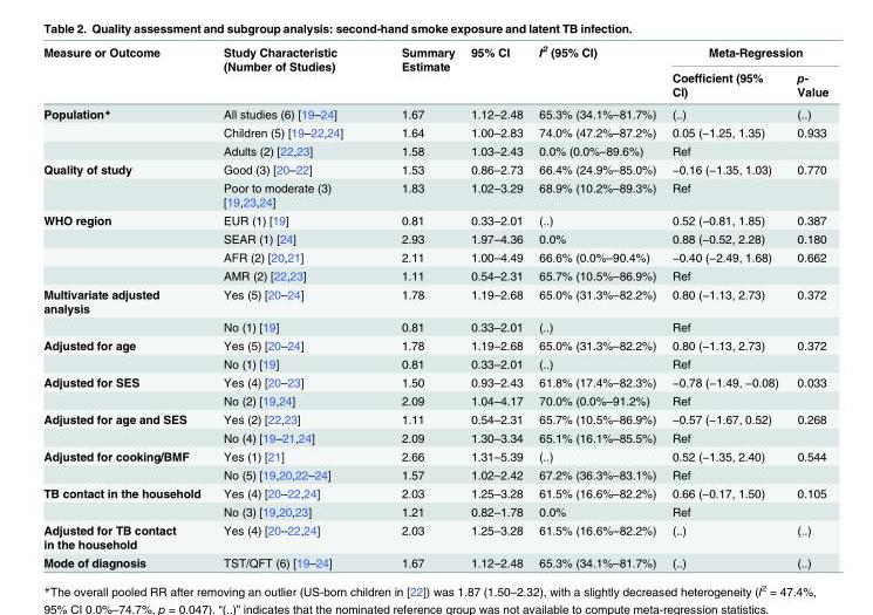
<table><thead><tr><td rowspan="2">Measure or Outcome</td><td rowspan="2">Study Characteristic (Number of Studies)</td><td rowspan="2">Summary Estimate</td><td rowspan="2">95% CI</td><td rowspan="2">I<sup>2</sup> (95% CI)</td><td colspan="2">Meta-Regression</td></tr><tr><td>Coefficient (95% CI)</td><td>p- Value</td></tr></thead><tbody><tr><td rowspan="3">Population*</td><td>All studies (6) [19–24]</td><td>1.67</td><td>1.12–2.48</td><td>65.3% (34.1%–81.7%)</td><td>(..)</td><td>(..)</td></tr><tr><td>Children (5) [19–22,24]</td><td>1.64</td><td>1.00–2.83</td><td>74.0% (47.2%–87.2%)</td><td>0.05 (−1.25, 1.35)</td><td>0.933</td></tr><tr><td>Adults (2) [22,23]</td><td>1.58</td><td>1.03–2.43</td><td>0.0% (0.0%–89.6%)</td><td>Ref</td><td></td></tr><tr><td rowspan="2">Quality of study</td><td>Good (3) [20–22]</td><td>1.53</td><td>0.86–2.73</td><td>66.4% (24.9%–85.0%)</td><td>−0.16 (−1.35, 1.03)</td><td>0.770</td></tr><tr><td>Poor to moderate (3) [19,23,24]</td><td>1.83</td><td>1.02–3.29</td><td>68.9% (10.2%–89.3%)</td><td>Ref</td><td></td></tr><tr><td rowspan="4">WHO region</td><td>EUR (1) [19]</td><td>0.81</td><td>0.33–2.01</td><td>(..)</td><td>0.52 (−0.81, 1.85)</td><td>0.387</td></tr><tr><td>SEAR (1) [24]</td><td>2.93</td><td>1.97–4.36</td><td>0.0%</td><td>0.88 (−0.52, 2.28)</td><td>0.180</td></tr><tr><td>AFR (2) [20,21]</td><td>2.11</td><td>1.00–4.49</td><td>66.6% (0.0%–90.4%)</td><td>−0.40 (−2.49, 1.68)</td><td>0.662</td></tr><tr><td>AMR (2) [22,23]</td><td>1.11</td><td>0.54–2.31</td><td>65.7% (10.5%–86.9%)</td><td>Ref</td><td></td></tr><tr><td rowspan="2">Multivariate adjusted analysis</td><td>Yes (5) [20–24]</td><td>1.78</td><td>1.19–2.68</td><td>65.0% (31.3%–82.2%)</td><td>0.80 (−1.13, 2.73)</td><td>0.372</td></tr><tr><td>No (1) [19]</td><td>0.81</td><td>0.33–2.01</td><td>(..)</td><td>Ref</td><td></td></tr><tr><td rowspan="2">Adjusted for age</td><td>Yes (5) [20–24]</td><td>1.78</td><td>1.19–2.68</td><td>65.0% (31.3%–82.2%)</td><td>0.80 (−1.13, 2.73)</td><td>0.372</td></tr><tr><td>No (1) [19]</td><td>0.81</td><td>0.33–2.01</td><td>(..)</td><td>Ref</td><td></td></tr><tr><td rowspan="2">Adjusted for SES</td><td>Yes (4) [20–23]</td><td>1.50</td><td>0.93–2.43</td><td>61.8% (17.4%–82.3%)</td><td>−0.78 (−1.49, −0.08)</td><td>0.033</td></tr><tr><td>No (2) [19,24]</td><td>2.09</td><td>1.04–4.17</td><td>70.0% (0.0%–91.2%)</td><td>Ref</td><td></td></tr><tr><td rowspan="2">Adjusted for age and SES</td><td>Yes (2) [22,23]</td><td>1.11</td><td>0.54–2.31</td><td>65.7% (10.5%–86.9%)</td><td>−0.57 (−1.67, 0.52)</td><td>0.268</td></tr><tr><td>No (4) [19–21,24]</td><td>2.09</td><td>1.30–3.34</td><td>65.1% (16.1%–85.5%)</td><td>Ref</td><td></td></tr><tr><td rowspan="2">Adjusted for cooking/BMF</td><td>Yes (1) [21]</td><td>2.66</td><td>1.31–5.39</td><td>(..)</td><td>0.52 (−1.35, 2.40)</td><td>0.544</td></tr><tr><td>No (5) [19,20,22–24]</td><td>1.57</td><td>1.02–2.42</td><td>67.2% (36.3%–83.1%)</td><td>Ref</td><td></td></tr><tr><td rowspan="2">TB contact in the household</td><td>Yes (4) [20–22,24]</td><td>2.03</td><td>1.25–3.28</td><td>61.5% (16.6%–82.2%)</td><td>0.66 (−0.17, 1.50)</td><td>0.105</td></tr><tr><td>No (3) [19,20,23]</td><td>1.21</td><td>0.82–1.78</td><td>0.0%</td><td>Ref</td><td></td></tr><tr><td>Adjusted for TB contact in the household</td><td>Yes (4) [20–22,24]</td><td>2.03</td><td>1.25–3.28</td><td>61.5% (16.6%–82.2%)</td><td>(..)</td><td>(..)</td></tr><tr><td>Mode of diagnosis</td><td>TST/QFT (6) [19–24]</td><td>1.67</td><td>1.12–2.48</td><td>65.3% (34.1%–81.7%)</td><td>(..)</td><td>(..)</td></tr></tbody></table>